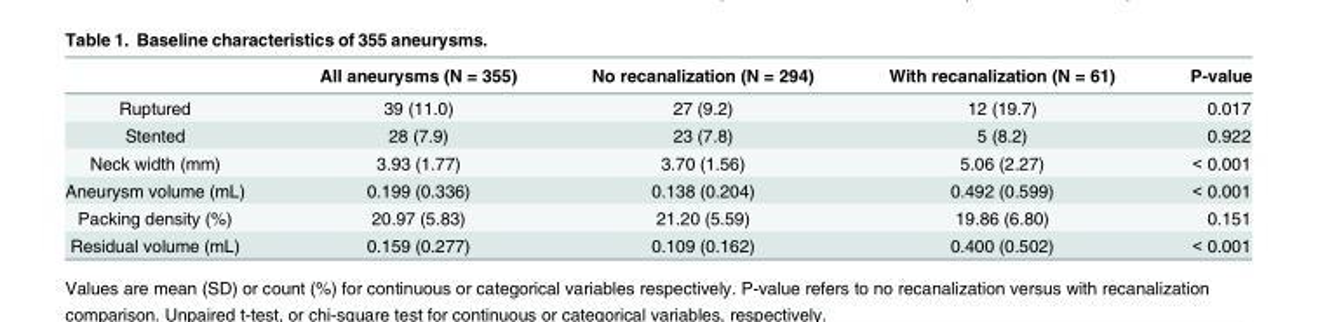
<table><thead><tr><td></td><td>All aneurysms (N = 355)</td><td>No recanalization (N = 294)</td><td>With recanalization (N = 61)</td><td>P-value</td></tr></thead><tbody><tr><td>Ruptured</td><td>39 (11.0)</td><td>27 (9.2)</td><td>12 (19.7)</td><td>0.017</td></tr><tr><td>Stented</td><td>28 (7.9)</td><td>23 (7.8)</td><td>5 (8.2)</td><td>0.922</td></tr><tr><td>Neck width (mm)</td><td>3.93 (1.77)</td><td>3.70 (1.56)</td><td>5.06 (2.27)</td><td>&lt; 0.001</td></tr><tr><td>Aneurysm volume (mL)</td><td>0.199 (0.336)</td><td>0.138 (0.204)</td><td>0.492 (0.599)</td><td>&lt; 0.001</td></tr><tr><td>Packing density (%)</td><td>20.97 (5.83)</td><td>21.20 (5.59)</td><td>19.86 (6.80)</td><td>0.151</td></tr><tr><td>Residual volume (mL)</td><td>0.159 (0.277)</td><td>0.109 (0.162)</td><td>0.400 (0.502)</td><td>&lt; 0.001</td></tr></tbody></table>